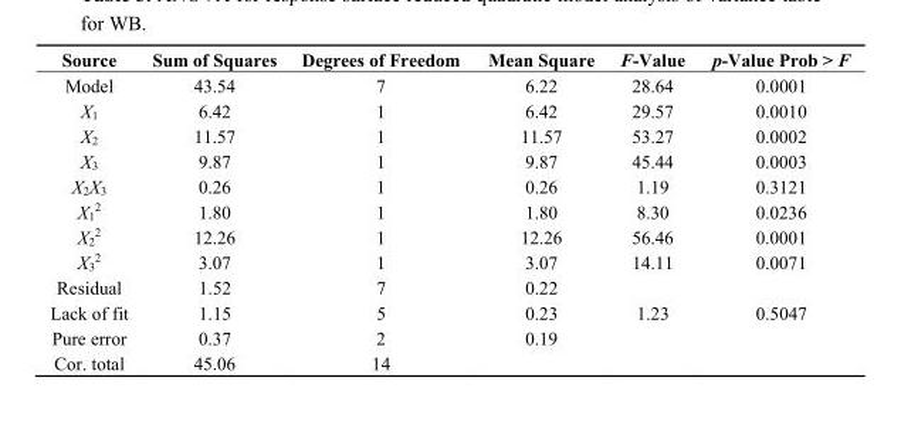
<table><thead><tr><td>Source</td><td>Sum of Squares</td><td>Degrees of Freedom</td><td>Mean Square</td><td>F-Value</td><td>p-Value Prob &gt; F</td></tr></thead><tbody><tr><td>Model</td><td>43.54</td><td>7</td><td>6.22</td><td>28.64</td><td>0.0001</td></tr><tr><td>X<sub>1</sub></td><td>6.42</td><td>1</td><td>6.42</td><td>29.57</td><td>0.0010</td></tr><tr><td>X<sub>2</sub></td><td>11.57</td><td>1</td><td>11.57</td><td>53.27</td><td>0.0002</td></tr><tr><td>X<sub>3</sub></td><td>9.87</td><td>1</td><td>9.87</td><td>45.44</td><td>0.0003</td></tr><tr><td>X<sub>2</sub>X<sub>3</sub></td><td>0.26</td><td>1</td><td>0.26</td><td>1.19</td><td>0.3121</td></tr><tr><td>X<sub>1</sub><sup>2</sup></td><td>1.80</td><td>1</td><td>1.80</td><td>8.30</td><td>0.0236</td></tr><tr><td>X<sub>2</sub><sup>2</sup></td><td>12.26</td><td>1</td><td>12.26</td><td>56.46</td><td>0.0001</td></tr><tr><td>X<sub>3</sub><sup>2</sup></td><td>3.07</td><td>1</td><td>3.07</td><td>14.11</td><td>0.0071</td></tr><tr><td>Residual</td><td>1.52</td><td>7</td><td>0.22</td><td></td><td></td></tr><tr><td>Lack of fit</td><td>1.15</td><td>5</td><td>0.23</td><td>1.23</td><td>0.5047</td></tr><tr><td>Pure error</td><td>0.37</td><td>2</td><td>0.19</td><td></td><td></td></tr><tr><td>Cor. total</td><td>45.06</td><td>14</td><td></td><td></td><td></td></tr></tbody></table>